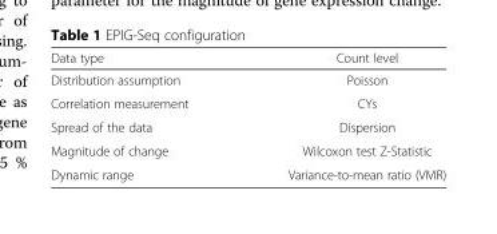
<table><thead><tr><td>Data type</td><td>Count level</td></tr></thead><tbody><tr><td>Distribution assumption</td><td>Poisson</td></tr><tr><td>Correlation measurement</td><td>CYs</td></tr><tr><td>Spread of the data</td><td>Dispersion</td></tr><tr><td>Magnitude of change</td><td>Wilcoxon test Z-Statistic</td></tr><tr><td>Dynamic range</td><td>Variance-to-mean ratio (VMR)</td></tr></tbody></table>